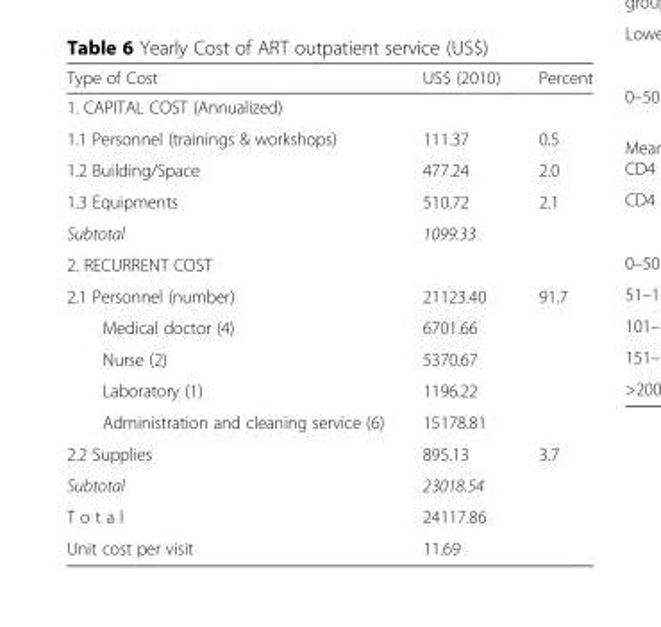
<table><thead><tr><td>Type of Cost</td><td>US$ (2010)</td><td>Percent</td></tr></thead><tbody><tr><td colspan="3">1. CAPITAL COST (Annualized)</td></tr><tr><td>1.1 Personnel (trainings &amp; workshops)</td><td>111.37</td><td>0.5</td></tr><tr><td>1.2 Building/Space</td><td>477.24</td><td>2.0</td></tr><tr><td>1.3 Equipments</td><td>510.72</td><td>2.1</td></tr><tr><td>Subtotal</td><td>1099.33</td><td></td></tr><tr><td colspan="3">2. RECURRENT COST</td></tr><tr><td>2.1 Personnel (number)</td><td>21123.40</td><td>91.7</td></tr><tr><td>Medical doctor (4)</td><td>6701.66</td><td></td></tr><tr><td>Nurse (2)</td><td>5370.67</td><td></td></tr><tr><td>Laboratory (1)</td><td>1196.22</td><td></td></tr><tr><td>Administration and cleaning service (6)</td><td>15178.81</td><td></td></tr><tr><td>2.2 Supplies</td><td>895.13</td><td>3.7</td></tr><tr><td>Subtotal</td><td>23018.54</td><td></td></tr><tr><td>T o t a l</td><td>24117.86</td><td></td></tr><tr><td>Unit cost per visit</td><td>11.69</td><td></td></tr></tbody></table>